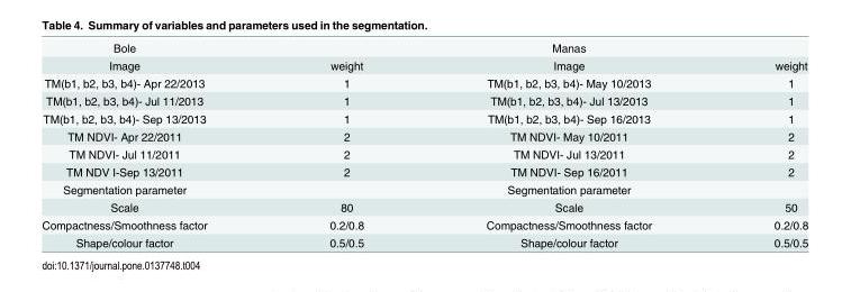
<table><tbody><tr><td>Bole</td><td></td><td>Manas</td><td></td></tr><tr><td>Image</td><td>weight</td><td>Image</td><td>weight</td></tr><tr><td>TM(b1, b2, b3, b4)- Apr 22/2013</td><td>1</td><td>TM(b1, b2, b3, b4)- May 10/2013</td><td>1</td></tr><tr><td>TM(b1, b2, b3, b4)- Jul 11/2013</td><td>1</td><td>TM(b1, b2, b3, b4)- Jul 13/2013</td><td>1</td></tr><tr><td>TM(b1, b2, b3, b4)- Sep 13/2013</td><td>1</td><td>TM(b1, b2, b3, b4)- Sep 16/2013</td><td>1</td></tr><tr><td>TM NDVI- Apr 22/2011</td><td>2</td><td>TM NDVI- May 10/2011</td><td>2</td></tr><tr><td>TM NDVI- Jul 11/2011</td><td>2</td><td>TM NDVI- Jul 13/2011</td><td>2</td></tr><tr><td>TM NDV I-Sep 13/2011</td><td>2</td><td>TM NDVI- Sep 16/2011</td><td>2</td></tr><tr><td>Segmentation parameter</td><td></td><td>Segmentation parameter</td><td></td></tr><tr><td>Scale</td><td>80</td><td>Scale</td><td>50</td></tr><tr><td>Compactness/Smoothness factor</td><td>0.2/0.8</td><td>Compactness/Smoothness factor</td><td>0.2/0.8</td></tr><tr><td>Shape/colour factor</td><td>0.5/0.5</td><td>Shape/colour factor</td><td>0.5/0.5</td></tr></tbody></table>